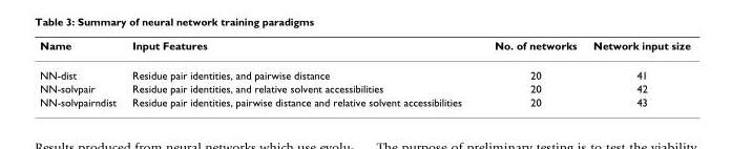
<table><thead><tr><td>Name</td><td>Input Features</td><td>No. of networks</td><td>Network input size</td></tr></thead><tbody><tr><td>NN-dist</td><td>Residue pair identities, and pairwise distance</td><td>20</td><td>41</td></tr><tr><td>NN-solvpair</td><td>Residue pair identities, and relative solvent accessibilities</td><td>20</td><td>42</td></tr><tr><td>NN-solvpairndist</td><td>Residue pair identities, pairwise distance and relative solvent accessibilities</td><td>20</td><td>43</td></tr></tbody></table>